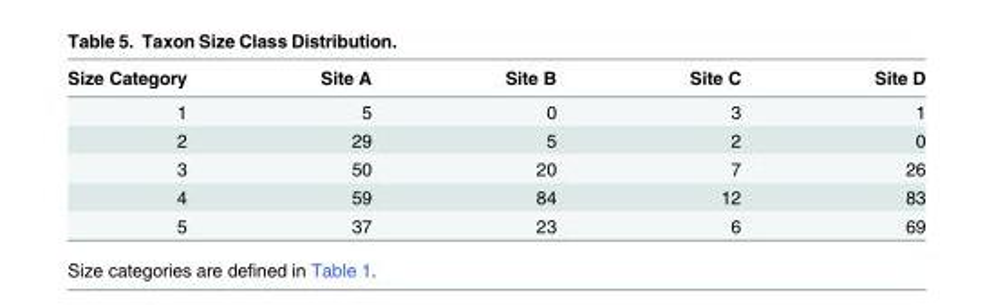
<table><thead><tr><td>Size Category</td><td>Site A</td><td>Site B</td><td>Site C</td><td>Site D</td></tr></thead><tbody><tr><td>1</td><td>5</td><td>0</td><td>3</td><td>1</td></tr><tr><td>2</td><td>29</td><td>5</td><td>2</td><td>0</td></tr><tr><td>3</td><td>50</td><td>20</td><td>7</td><td>26</td></tr><tr><td>4</td><td>59</td><td>84</td><td>12</td><td>83</td></tr><tr><td>5</td><td>37</td><td>23</td><td>6</td><td>69</td></tr></tbody></table>